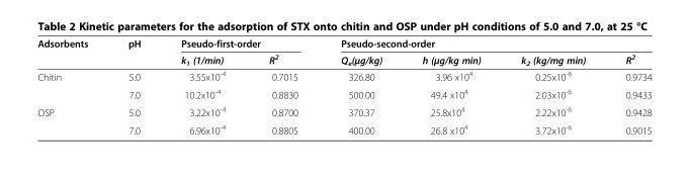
<table><thead><tr><td rowspan="2">Adsorbents</td><td rowspan="2">pH</td><td colspan="2">Pseudo-first-order</td><td colspan="4">Pseudo-second-order</td></tr><tr><td>k<sub>1</sub> (1/min)</td><td>R<sup>2</sup></td><td>Q<sub>e</sub>(μg/kg)</td><td>h (μg/kg min)</td><td>k<sub>2</sub> (kg/mg min)</td><td>R<sup>2</sup></td></tr></thead><tbody><tr><td rowspan="2">Chitin</td><td>5.0</td><td>3.55x10<sup>-4</sup></td><td>0.7015</td><td>326.80</td><td>3.96 x10<sup>4</sup></td><td>0.25x10<sup>-6</sup></td><td>0.9734</td></tr><tr><td>7.0</td><td>10.2x10<sup>-4</sup></td><td>0.8830</td><td>500.00</td><td>49.4 x10<sup>4</sup></td><td>2.03x10<sup>-6</sup></td><td>0.9433</td></tr><tr><td rowspan="2">OSP</td><td>5.0</td><td>3.22x10<sup>-4</sup></td><td>0.8700</td><td>370.37</td><td>25.8x10<sup>4</sup></td><td>2.22x10<sup>-6</sup></td><td>0.9428</td></tr><tr><td>7.0</td><td>6.96x10<sup>-4</sup></td><td>0.8805</td><td>400.00</td><td>26.8 x10<sup>4</sup></td><td>3.72x10<sup>-6</sup></td><td>0.9015</td></tr></tbody></table>